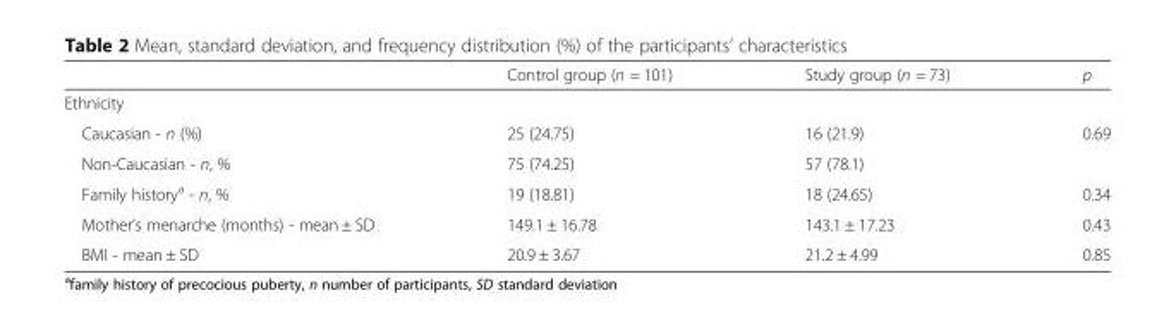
<table><thead><tr><td></td><td>Control group (n = 101)</td><td>Study group (n = 73)</td><td>p</td></tr></thead><tbody><tr><td colspan="4">Ethnicity</td></tr><tr><td>Caucasian - n (%)</td><td>25 (24.75)</td><td>16 (21.9)</td><td rowspan="2">0.69</td></tr><tr><td>Non-Caucasian - n, %</td><td>75 (74.25)</td><td>57 (78.1)</td></tr><tr><td>Family history<sup>a</sup> - n, %</td><td>19 (18.81)</td><td>18 (24.65)</td><td>0.34</td></tr><tr><td>Mother’s menarche (months) - mean ± SD</td><td>149.1 ± 16.78</td><td>143.1 ± 17.23</td><td>0.43</td></tr><tr><td>BMI - mean ± SD</td><td>20.9 ± 3.67</td><td>21.2 ± 4.99</td><td>0.85</td></tr></tbody></table>